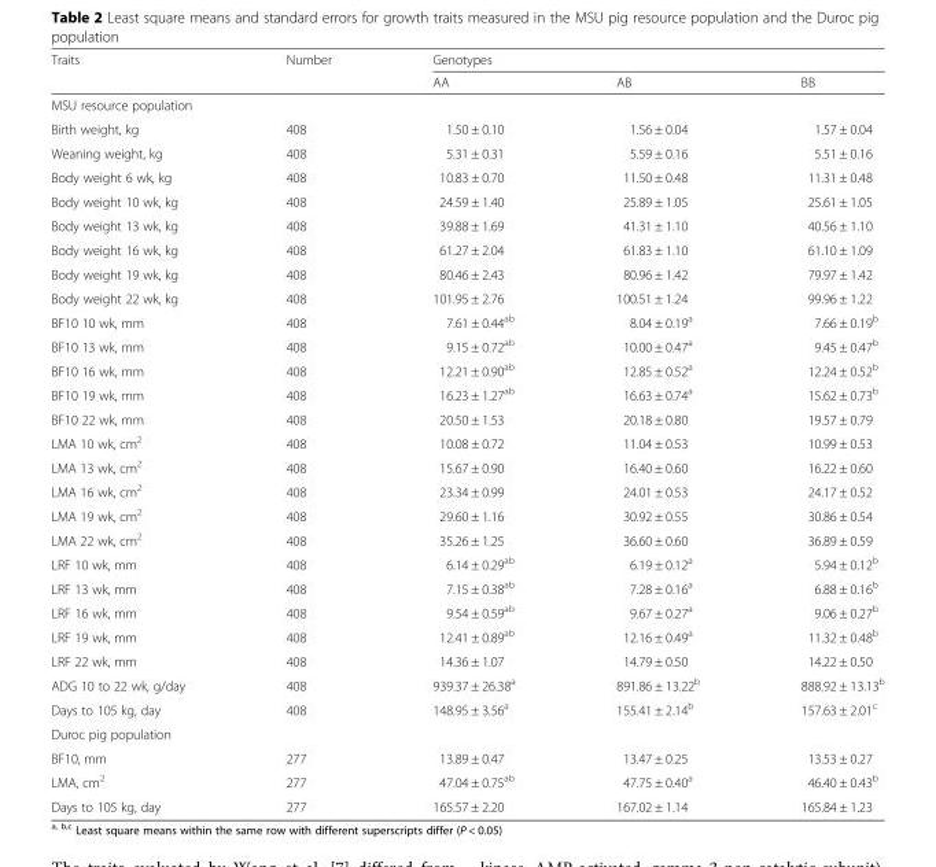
<table><thead><tr><td rowspan="2">Traits</td><td rowspan="2">Number</td><td colspan="3">Genotypes</td></tr><tr><td>AA</td><td>AB</td><td>BB</td></tr></thead><tbody><tr><td colspan="5">MSU resource population</td></tr><tr><td>Birth weight, kg</td><td>408</td><td>1.50 ± 0.10</td><td>1.56 ± 0.04</td><td>1.57 ± 0.04</td></tr><tr><td>Weaning weight, kg</td><td>408</td><td>5.31 ± 0.31</td><td>5.59 ± 0.16</td><td>5.51 ± 0.16</td></tr><tr><td>Body weight 6 wk, kg</td><td>408</td><td>10.83 ± 0.70</td><td>11.50 ± 0.48</td><td>11.31 ± 0.48</td></tr><tr><td>Body weight 10 wk, kg</td><td>408</td><td>24.59 ± 1.40</td><td>25.89 ± 1.05</td><td>25.61 ± 1.05</td></tr><tr><td>Body weight 13 wk, kg</td><td>408</td><td>39.88 ± 1.69</td><td>41.31 ± 1.10</td><td>40.56 ± 1.10</td></tr><tr><td>Body weight 16 wk, kg</td><td>408</td><td>61.27 ± 2.04</td><td>61.83 ± 1.10</td><td>61.10 ± 1.09</td></tr><tr><td>Body weight 19 wk, kg</td><td>408</td><td>80.46 ± 2.43</td><td>80.96 ± 1.42</td><td>79.97 ± 1.42</td></tr><tr><td>Body weight 22 wk, kg</td><td>408</td><td>101.95 ± 2.76</td><td>100.51 ± 1.24</td><td>99.96 ± 1.22</td></tr><tr><td>BF10 10 wk, mm</td><td>408</td><td>7.61 ± 0.44<sup>ab</sup></td><td>8.04 ± 0.19<sup>a</sup></td><td>7.66 ± 0.19<sup>b</sup></td></tr><tr><td>BF10 13 wk, mm</td><td>408</td><td>9.15 ± 0.72<sup>ab</sup></td><td>10.00 ± 0.47<sup>a</sup></td><td>9.45 ± 0.47<sup>b</sup></td></tr><tr><td>BF10 16 wk, mm</td><td>408</td><td>12.21 ± 0.90<sup>ab</sup></td><td>12.85 ± 0.52<sup>a</sup></td><td>12.24 ± 0.52<sup>b</sup></td></tr><tr><td>BF10 19 wk, mm</td><td>408</td><td>16.23 ± 1.27<sup>ab</sup></td><td>16.63 ± 0.74<sup>a</sup></td><td>15.62 ± 0.73<sup>b</sup></td></tr><tr><td>BF10 22 wk, mm</td><td>408</td><td>20.50 ± 1.53</td><td>20.18 ± 0.80</td><td>19.57 ± 0.79</td></tr><tr><td>LMA 10 wk, cm<sup>2</sup></td><td>408</td><td>10.08 ± 0.72</td><td>11.04 ± 0.53</td><td>10.99 ± 0.53</td></tr><tr><td>LMA 13 wk, cm<sup>2</sup></td><td>408</td><td>15.67 ± 0.90</td><td>16.40 ± 0.60</td><td>16.22 ± 0.60</td></tr><tr><td>LMA 16 wk, cm<sup>2</sup></td><td>408</td><td>23.34 ± 0.99</td><td>24.01 ± 0.53</td><td>24.17 ± 0.52</td></tr><tr><td>LMA 19 wk, cm<sup>2</sup></td><td>408</td><td>29.60 ± 1.16</td><td>30.92 ± 0.55</td><td>30.86 ± 0.54</td></tr><tr><td>LMA 22 wk, cm<sup>2</sup></td><td>408</td><td>35.26 ± 1.25</td><td>36.60 ± 0.60</td><td>36.89 ± 0.59</td></tr><tr><td>LRF 10 wk, mm</td><td>408</td><td>6.14 ± 0.29<sup>ab</sup></td><td>6.19 ± 0.12<sup>a</sup></td><td>5.94 ± 0.12<sup>b</sup></td></tr><tr><td>LRF 13 wk, mm</td><td>408</td><td>7.15 ± 0.38<sup>ab</sup></td><td>7.28 ± 0.16<sup>a</sup></td><td>6.88 ± 0.16<sup>b</sup></td></tr><tr><td>LRF 16 wk, mm</td><td>408</td><td>9.54 ± 0.59<sup>ab</sup></td><td>9.67 ± 0.27<sup>a</sup></td><td>9.06 ± 0.27<sup>b</sup></td></tr><tr><td>LRF 19 wk, mm</td><td>408</td><td>12.41 ± 0.89<sup>ab</sup></td><td>12.16 ± 0.49<sup>a</sup></td><td>11.32 ± 0.48<sup>b</sup></td></tr><tr><td>LRF 22 wk, mm</td><td>408</td><td>14.36 ± 1.07</td><td>14.79 ± 0.50</td><td>14.22 ± 0.50</td></tr><tr><td>ADG 10 to 22 wk, g/day</td><td>408</td><td>939.37 ± 26.38<sup>a</sup></td><td>891.86 ± 13.22<sup>b</sup></td><td>888.92 ± 13.13<sup>b</sup></td></tr><tr><td>Days to 105 kg, day</td><td>408</td><td>148.95 ± 3.56<sup>a</sup></td><td>155.41 ± 2.14<sup>b</sup></td><td>157.63 ± 2.01<sup>c</sup></td></tr><tr><td colspan="5">Duroc pig population</td></tr><tr><td>BF10, mm</td><td>277</td><td>13.89 ± 0.47</td><td>13.47 ± 0.25</td><td>13.53 ± 0.27</td></tr><tr><td>LMA, cm<sup>2</sup></td><td>277</td><td>47.04 ± 0.75<sup>ab</sup></td><td>47.75 ± 0.40<sup>a</sup></td><td>46.40 ± 0.43<sup>b</sup></td></tr><tr><td>Days to 105 kg, day</td><td>277</td><td>165.57 ± 2.20</td><td>167.02 ± 1.14</td><td>165.84 ± 1.23</td></tr></tbody></table>